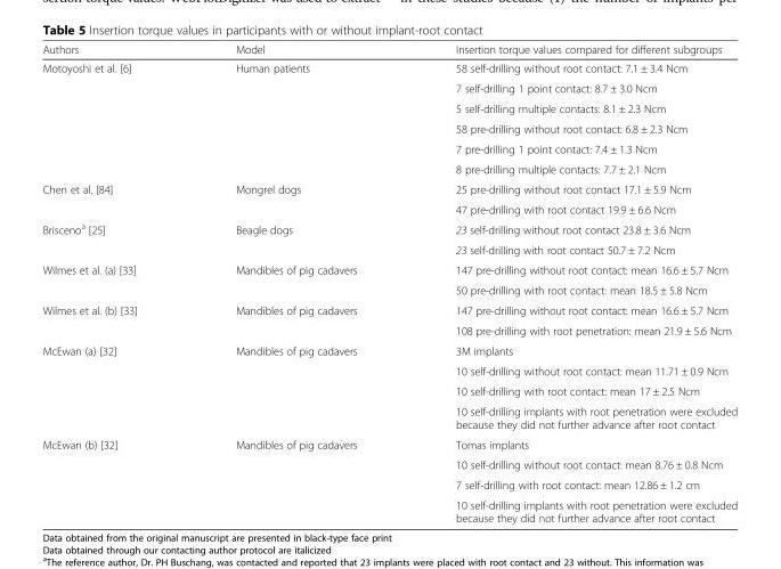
<table><thead><tr><td>Authors</td><td>Model</td><td>Insertion torque values compared for different subgroups</td></tr></thead><tbody><tr><td rowspan="6">Motoyoshi et al. [6]</td><td rowspan="6">Human patients</td><td>58 self-drilling without root contact: 7.1 ± 3.4 Ncm</td></tr><tr><td>7 self-drilling 1 point contact: 8.7 ± 3.0 Ncm</td></tr><tr><td>5 self-drilling multiple contacts: 8.1 ± 2.3 Ncm</td></tr><tr><td>58 pre-drilling without root contact: 6.8 ± 2.3 Ncm</td></tr><tr><td>7 pre-drilling 1 point contact: 7.4 ± 1.3 Ncm</td></tr><tr><td>8 pre-drilling multiple contacts: 7.7 ± 2.1 Ncm</td></tr><tr><td rowspan="2">Chen et al. [84]</td><td rowspan="2">Mongrel dogs</td><td>25 pre-drilling without root contact 17.1 ± 5.9 Ncm</td></tr><tr><td>47 pre-drilling with root contact 19.9 ± 6.6 Ncm</td></tr><tr><td rowspan="2">Brisceno<sup>a</sup> [25]</td><td rowspan="2">Beagle dogs</td><td>23 self-drilling without root contact 23.8 ± 3.6 Ncm</td></tr><tr><td>23 self-drilling with root contact 50.7 ± 7.2 Ncm</td></tr><tr><td rowspan="2">Wilmes et al. (a) [33]</td><td rowspan="2">Mandibles of pig cadavers</td><td>147 pre-drilling without root contact: mean 16.6 ± 5.7 Ncm</td></tr><tr><td>50 pre-drilling with root contact: mean 18.5 ± 5.8 Ncm</td></tr><tr><td rowspan="2">Wilmes et al. (b) [33]</td><td rowspan="2">Mandibles of pig cadavers</td><td>147 pre-drilling without root contact: mean 16.6 ± 5.7 Ncm</td></tr><tr><td>108 pre-drilling with root penetration: mean 21.9 ± 5.6 Ncm</td></tr><tr><td rowspan="4">McEwan (a) [32]</td><td rowspan="4">Mandibles of pig cadavers</td><td>3M implants</td></tr><tr><td>10 self-drilling without root contact: mean 11.71 ± 0.9 Ncm</td></tr><tr><td>10 self-drilling with root contact: mean 17 ± 2.5 Ncm</td></tr><tr><td>10 self-drilling implants with root penetration were excluded because they did not further advance after root contact</td></tr><tr><td rowspan="4">McEwan (b) [32]</td><td rowspan="4">Mandibles of pig cadavers</td><td>Tomas implants</td></tr><tr><td>10 self-drilling without root contact: mean 8.76 ± 0.8 Ncm</td></tr><tr><td>7 self-drilling with root contact: mean 12.86 ± 1.2 cm</td></tr><tr><td>10 self-drilling implants with root penetration were excluded because they did not further advance after root contact</td></tr></tbody></table>